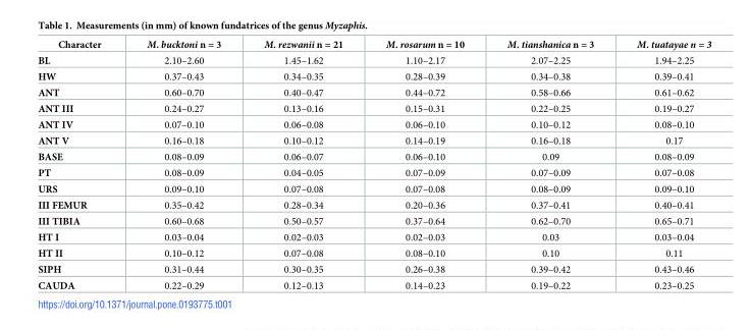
<table><thead><tr><td>Character</td><td>M. bucktoni n = 3</td><td>M. rezwanii n = 21</td><td>M. rosarum n = 10</td><td>M. tianshanica n = 3</td><td>M. tuatayae n = 3</td></tr></thead><tbody><tr><td>BL</td><td>2.10–2.60</td><td>1.45–1.62</td><td>1.10–2.17</td><td>2.07–2.25</td><td>1.94–2.25</td></tr><tr><td>HW</td><td>0.37–0.43</td><td>0.34–0.35</td><td>0.28–0.39</td><td>0.34–0.38</td><td>0.39–0.41</td></tr><tr><td>ANT</td><td>0.60–0.70</td><td>0.40–0.47</td><td>0.44–0.72</td><td>0.58–0.66</td><td>0.61–0.62</td></tr><tr><td>ANT III</td><td>0.24–0.27</td><td>0.13–0.16</td><td>0.15–0.31</td><td>0.22–0.25</td><td>0.19–0.27</td></tr><tr><td>ANT IV</td><td>0.07–0.10</td><td>0.06–0.08</td><td>0.06–0.10</td><td>0.10–0.12</td><td>0.08–0.10</td></tr><tr><td>ANT V</td><td>0.16–0.18</td><td>0.10–0.12</td><td>0.14–0.19</td><td>0.16–0.18</td><td>0.17</td></tr><tr><td>BASE</td><td>0.08–0.09</td><td>0.06–0.07</td><td>0.06–0.10</td><td>0.09</td><td>0.08–0.09</td></tr><tr><td>PT</td><td>0.08–0.09</td><td>0.04–0.05</td><td>0.07–0.09</td><td>0.07–0.09</td><td>0.07–0.08</td></tr><tr><td>URS</td><td>0.09–0.10</td><td>0.07–0.08</td><td>0.07–0.08</td><td>0.08–0.09</td><td>0.09–0.10</td></tr><tr><td>III FEMUR</td><td>0.35–0.42</td><td>0.28–0.34</td><td>0.20–0.36</td><td>0.37–0.41</td><td>0.40–0.41</td></tr><tr><td>III TIBIA</td><td>0.60–0.68</td><td>0.50–0.57</td><td>0.37–0.64</td><td>0.62–0.70</td><td>0.65–0.71</td></tr><tr><td>HT I</td><td>0.03–0.04</td><td>0.02–0.03</td><td>0.02–0.03</td><td>0.03</td><td>0.03–0.04</td></tr><tr><td>HT II</td><td>0.10–0.12</td><td>0.07–0.08</td><td>0.08–0.10</td><td>0.10</td><td>0.11</td></tr><tr><td>SIPH</td><td>0.31–0.44</td><td>0.30–0.35</td><td>0.26–0.38</td><td>0.39–0.42</td><td>0.43–0.46</td></tr><tr><td>CAUDA</td><td>0.22–0.29</td><td>0.12–0.13</td><td>0.14–0.23</td><td>0.19–0.22</td><td>0.23–0.25</td></tr></tbody></table>